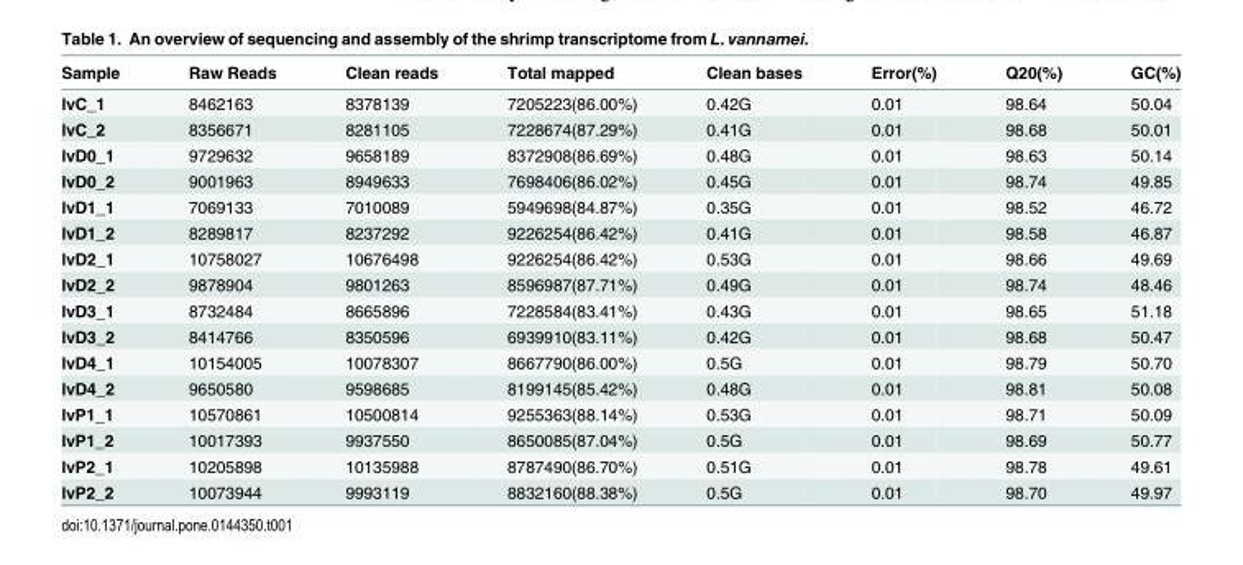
<table><thead><tr><td>Sample</td><td>Raw Reads</td><td>Clean reads</td><td>Total mapped</td><td>Clean bases</td><td>Error(%)</td><td>Q20(%)</td><td>GC(%)</td></tr></thead><tbody><tr><td>lvC_1</td><td>8462163</td><td>8378139</td><td>7205223(86.00%)</td><td>0.42G</td><td>0.01</td><td>98.64</td><td>50.04</td></tr><tr><td>lvC_2</td><td>8356671</td><td>8281105</td><td>7228674(87.29%)</td><td>0.41G</td><td>0.01</td><td>98.68</td><td>50.01</td></tr><tr><td>lvD0_1</td><td>9729632</td><td>9658189</td><td>8372908(86.69%)</td><td>0.48G</td><td>0.01</td><td>98.63</td><td>50.14</td></tr><tr><td>lvD0_2</td><td>9001963</td><td>8949633</td><td>7698406(86.02%)</td><td>0.45G</td><td>0.01</td><td>98.74</td><td>49.85</td></tr><tr><td>lvD1_1</td><td>7069133</td><td>7010089</td><td>5949698(84.87%)</td><td>0.35G</td><td>0.01</td><td>98.52</td><td>46.72</td></tr><tr><td>lvD1_2</td><td>8289817</td><td>8237292</td><td>9226254(86.42%)</td><td>0.41G</td><td>0.01</td><td>98.58</td><td>46.87</td></tr><tr><td>lvD2_1</td><td>10758027</td><td>10676498</td><td>9226254(86.42%)</td><td>0.53G</td><td>0.01</td><td>98.66</td><td>49.69</td></tr><tr><td>lvD2_2</td><td>9878904</td><td>9801263</td><td>8596987(87.71%)</td><td>0.49G</td><td>0.01</td><td>98.74</td><td>48.46</td></tr><tr><td>lvD3_1</td><td>8732484</td><td>8665896</td><td>7228584(83.41%)</td><td>0.43G</td><td>0.01</td><td>98.65</td><td>51.18</td></tr><tr><td>lvD3_2</td><td>8414766</td><td>8350596</td><td>6939910(83.11%)</td><td>0.42G</td><td>0.01</td><td>98.68</td><td>50.47</td></tr><tr><td>lvD4_1</td><td>10154005</td><td>10078307</td><td>8667790(86.00%)</td><td>0.5G</td><td>0.01</td><td>98.79</td><td>50.70</td></tr><tr><td>lvD4_2</td><td>9650580</td><td>9598685</td><td>8199145(85.42%)</td><td>0.48G</td><td>0.01</td><td>98.81</td><td>50.08</td></tr><tr><td>lvP1_1</td><td>10570861</td><td>10500814</td><td>9255363(88.14%)</td><td>0.53G</td><td>0.01</td><td>98.71</td><td>50.09</td></tr><tr><td>lvP1_2</td><td>10017393</td><td>9937550</td><td>8650085(87.04%)</td><td>0.5G</td><td>0.01</td><td>98.69</td><td>50.77</td></tr><tr><td>lvP2_1</td><td>10205898</td><td>10135988</td><td>8787490(86.70%)</td><td>0.51G</td><td>0.01</td><td>98.78</td><td>49.61</td></tr><tr><td>lvP2_2</td><td>10073944</td><td>9993119</td><td>8832160(88.38%)</td><td>0.5G</td><td>0.01</td><td>98.70</td><td>49.97</td></tr></tbody></table>